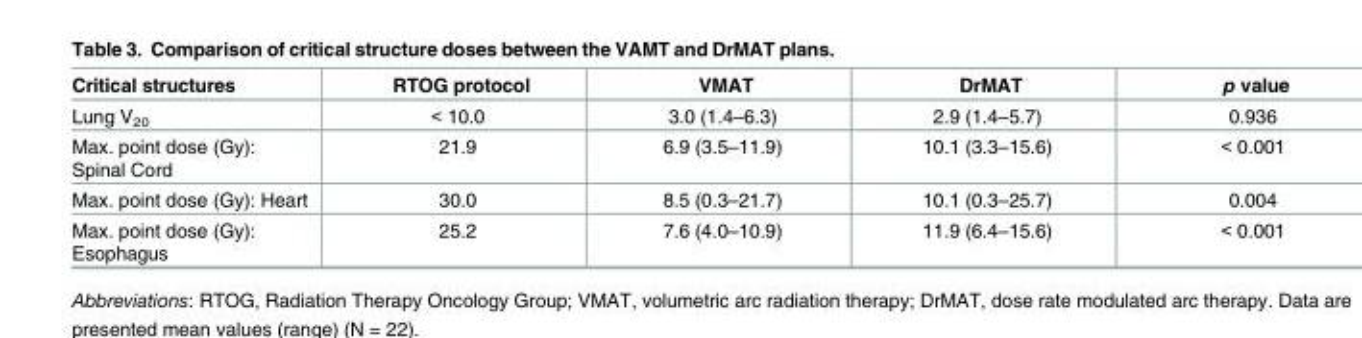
<table><thead><tr><td>Critical structures</td><td>RTOG protocol</td><td>VMAT</td><td>DrMAT</td><td>p value</td></tr></thead><tbody><tr><td>Lung V<sub>20</sub></td><td>&lt; 10.0</td><td>3.0 (1.4–6.3)</td><td>2.9 (1.4–5.7)</td><td>0.936</td></tr><tr><td>Max. point dose (Gy): Spinal Cord</td><td>21.9</td><td>6.9 (3.5–11.9)</td><td>10.1 (3.3–15.6)</td><td>&lt; 0.001</td></tr><tr><td>Max. point dose (Gy): Heart</td><td>30.0</td><td>8.5 (0.3–21.7)</td><td>10.1 (0.3–25.7)</td><td>0.004</td></tr><tr><td>Max. point dose (Gy): Esophagus</td><td>25.2</td><td>7.6 (4.0–10.9)</td><td>11.9 (6.4–15.6)</td><td>&lt; 0.001</td></tr></tbody></table>